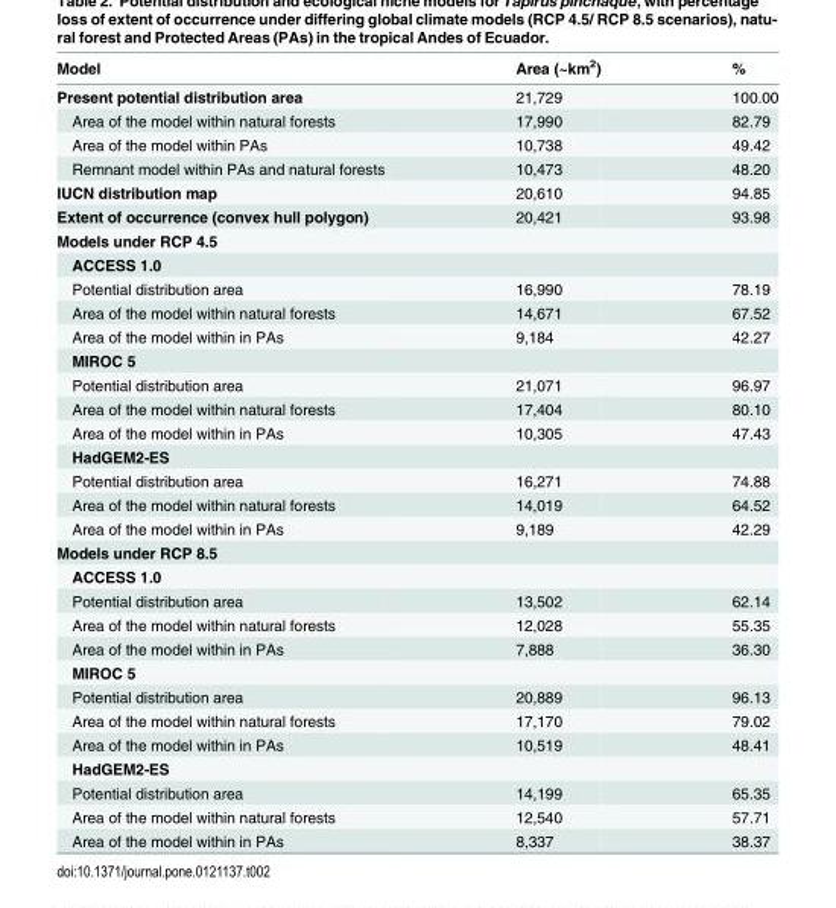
<table><thead><tr><td>Model</td><td>Area (~km<sup>2</sup>)</td><td>%</td></tr></thead><tbody><tr><td>Present potential distribution area</td><td>21,729</td><td>100.00</td></tr><tr><td>Area of the model within natural forests</td><td>17,990</td><td>82.79</td></tr><tr><td>Area of the model within PAs</td><td>10,738</td><td>49.42</td></tr><tr><td>Remnant model within PAs and natural forests</td><td>10,473</td><td>48.20</td></tr><tr><td>IUCN distribution map</td><td>20,610</td><td>94.85</td></tr><tr><td>Extent of occurrence (convex hull polygon)</td><td>20,421</td><td>93.98</td></tr><tr><td colspan="3">Models under RCP 4.5</td></tr><tr><td colspan="3">ACCESS 1.0</td></tr><tr><td>Potential distribution area</td><td>16,990</td><td>78.19</td></tr><tr><td>Area of the model within natural forests</td><td>14,671</td><td>67.52</td></tr><tr><td>Area of the model within in PAs</td><td>9,184</td><td>42.27</td></tr><tr><td colspan="3">MIROC 5</td></tr><tr><td>Potential distribution area</td><td>21,071</td><td>96.97</td></tr><tr><td>Area of the model within natural forests</td><td>17,404</td><td>80.10</td></tr><tr><td>Area of the model within in PAs</td><td>10,305</td><td>47.43</td></tr><tr><td colspan="3">HadGEM2-ES</td></tr><tr><td>Potential distribution area</td><td>16,271</td><td>74.88</td></tr><tr><td>Area of the model within natural forests</td><td>14,019</td><td>64.52</td></tr><tr><td>Area of the model within in PAs</td><td>9,189</td><td>42.29</td></tr><tr><td colspan="3">Models under RCP 8.5</td></tr><tr><td colspan="3">ACCESS 1.0</td></tr><tr><td>Potential distribution area</td><td>13,502</td><td>62.14</td></tr><tr><td>Area of the model within natural forests</td><td>12,028</td><td>55.35</td></tr><tr><td>Area of the model within in PAs</td><td>7,888</td><td>36.30</td></tr><tr><td colspan="3">MIROC 5</td></tr><tr><td>Potential distribution area</td><td>20,889</td><td>96.13</td></tr><tr><td>Area of the model within natural forests</td><td>17,170</td><td>79.02</td></tr><tr><td>Area of the model within in PAs</td><td>10,519</td><td>48.41</td></tr><tr><td colspan="3">HadGEM2-ES</td></tr><tr><td>Potential distribution area</td><td>14,199</td><td>65.35</td></tr><tr><td>Area of the model within natural forests</td><td>12,540</td><td>57.71</td></tr><tr><td>Area of the model within in PAs</td><td>8,337</td><td>38.37</td></tr></tbody></table>